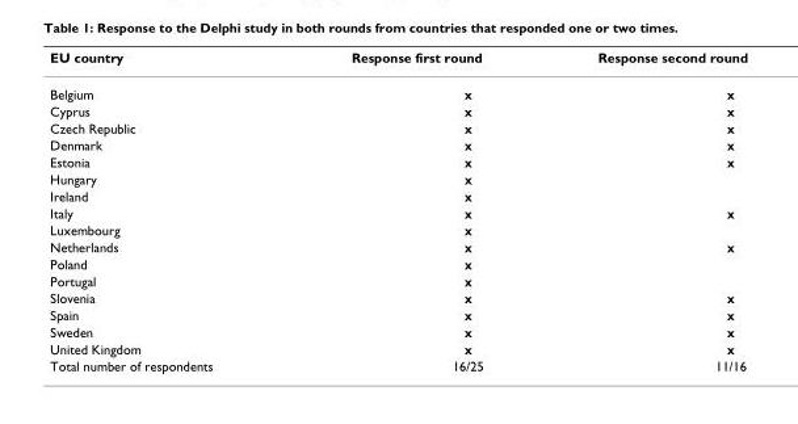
<table><thead><tr><td>EU country</td><td>Response first round</td><td>Response second round</td></tr></thead><tbody><tr><td>Belgium</td><td>x</td><td>x</td></tr><tr><td>Cyprus</td><td>x</td><td>x</td></tr><tr><td>Czech Republic</td><td>x</td><td>x</td></tr><tr><td>Denmark</td><td>x</td><td>x</td></tr><tr><td>Estonia</td><td>x</td><td>x</td></tr><tr><td>Hungary</td><td>x</td><td></td></tr><tr><td>Ireland</td><td>x</td><td></td></tr><tr><td>Italy</td><td>x</td><td>x</td></tr><tr><td>Luxembourg</td><td>x</td><td></td></tr><tr><td>Netherlands</td><td>x</td><td>x</td></tr><tr><td>Poland</td><td>x</td><td></td></tr><tr><td>Portugal</td><td>x</td><td></td></tr><tr><td>Slovenia</td><td>x</td><td>x</td></tr><tr><td>Spain</td><td>x</td><td>x</td></tr><tr><td>Sweden</td><td>x</td><td>x</td></tr><tr><td>United Kingdom</td><td>x</td><td>x</td></tr><tr><td>Total number of respondents</td><td>16/25</td><td>11/16</td></tr></tbody></table>